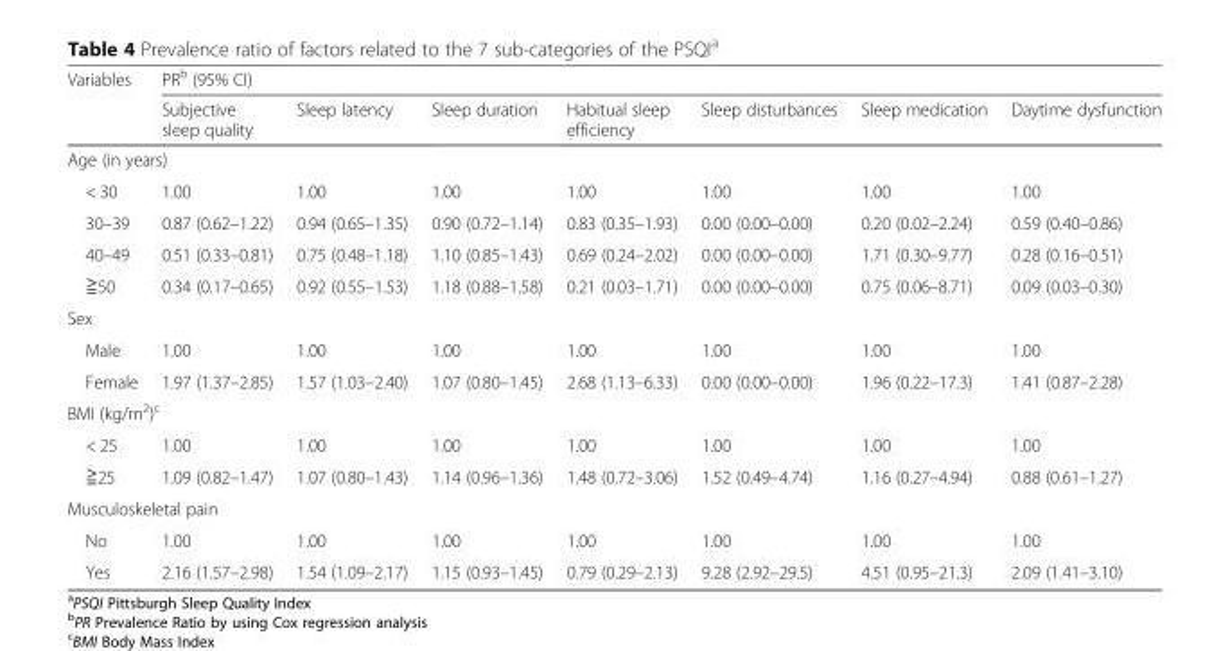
<table><thead><tr><td rowspan="2">Variables</td><td colspan="7">PR<sup>b</sup> (95% CI)</td></tr><tr><td>Subjective sleep quality</td><td>Sleep latency</td><td>Sleep duration</td><td>Habitual sleep efficiency</td><td>Sleep disturbances</td><td>Sleep medication</td><td>Daytime dysfunction</td></tr></thead><tbody><tr><td colspan="8">Age (in years)</td></tr><tr><td>&lt; 30</td><td>1.00</td><td>1.00</td><td>1.00</td><td>1.00</td><td>1.00</td><td>1.00</td><td>1.00</td></tr><tr><td>30–39</td><td>0.87 (0.62–1.22)</td><td>0.94 (0.65–1.35)</td><td>0.90 (0.72–1.14)</td><td>0.83 (0.35–1.93)</td><td>0.00 (0.00–0.00)</td><td>0.20 (0.02–2.24)</td><td>0.59 (0.40–0.86)</td></tr><tr><td>40–49</td><td>0.51 (0.33–0.81)</td><td>0.75 (0.48–1.18)</td><td>1.10 (0.85–1.43)</td><td>0.69 (0.24–2.02)</td><td>0.00 (0.00–0.00)</td><td>1.71 (0.30–9.77)</td><td>0.28 (0.16–0.51)</td></tr><tr><td>≧50</td><td>0.34 (0.17–0.65)</td><td>0.92 (0.55–1.53)</td><td>1.18 (0.88–1.58)</td><td>0.21 (0.03–1.71)</td><td>0.00 (0.00–0.00)</td><td>0.75 (0.06–8.71)</td><td>0.09 (0.03–0.30)</td></tr><tr><td colspan="8">Sex</td></tr><tr><td>Male</td><td>1.00</td><td>1.00</td><td>1.00</td><td>1.00</td><td>1.00</td><td>1.00</td><td>1.00</td></tr><tr><td>Female</td><td>1.97 (1.37–2.85)</td><td>1.57 (1.03–2.40)</td><td>1.07 (0.80–1.45)</td><td>2.68 (1.13–6.33)</td><td>0.00 (0.00–0.00)</td><td>1.96 (0.22–17.3)</td><td>1.41 (0.87–2.28)</td></tr><tr><td colspan="8">BMI (kg/m<sup>2</sup>)<sup>c</sup></td></tr><tr><td>&lt; 25</td><td>1.00</td><td>1.00</td><td>1.00</td><td>1.00</td><td>1.00</td><td>1.00</td><td>1.00</td></tr><tr><td>≧25</td><td>1.09 (0.82–1.47)</td><td>1.07 (0.80–1.43)</td><td>1.14 (0.96–1.36)</td><td>1.48 (0.72–3.06)</td><td>1.52 (0.49–4.74)</td><td>1.16 (0.27–4.94)</td><td>0.88 (0.61–1.27)</td></tr><tr><td colspan="8">Musculoskeletal pain</td></tr><tr><td>No</td><td>1.00</td><td>1.00</td><td>1.00</td><td>1.00</td><td>1.00</td><td>1.00</td><td>1.00</td></tr><tr><td>Yes</td><td>2.16 (1.57–2.98)</td><td>1.54 (1.09–2.17)</td><td>1.15 (0.93–1.45)</td><td>0.79 (0.29–2.13)</td><td>9.28 (2.92–29.5)</td><td>4.51 (0.95–21.3)</td><td>2.09 (1.41–3.10)</td></tr></tbody></table>